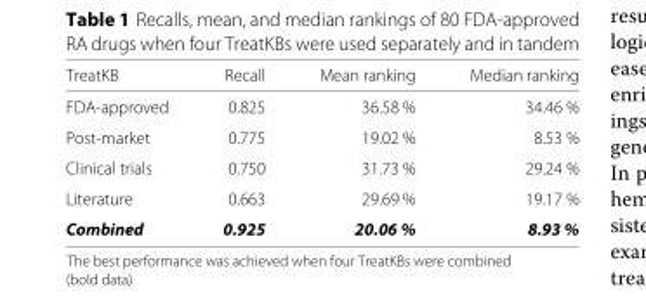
<table><thead><tr><td>TreatKB</td><td>Recall</td><td>Mean ranking</td><td>Median ranking</td></tr></thead><tbody><tr><td>FDA-approved</td><td>0.825</td><td>36.58 %</td><td>34.46 %</td></tr><tr><td>Post-market</td><td>0.775</td><td>19.02 %</td><td>8.53 %</td></tr><tr><td>Clinical trials</td><td>0.750</td><td>31.73 %</td><td>29.24 %</td></tr><tr><td>Literature</td><td>0.663</td><td>29.69 %</td><td>19.17 %</td></tr><tr><td>Combined</td><td>0.925</td><td>20.06 %</td><td>8.93 %</td></tr></tbody></table>